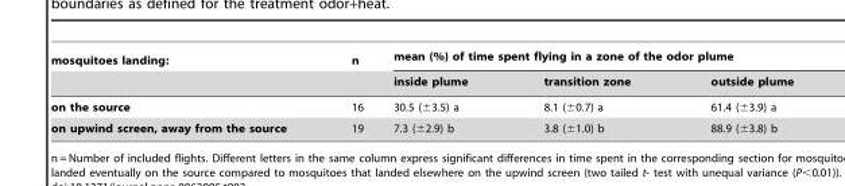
<table><thead><tr><td rowspan="2">mosquitoes landing:</td><td rowspan="2">n</td><td colspan="3">mean (%) of time spent flying in a zone of the odor plume</td></tr><tr><td>inside plume</td><td>transition zone</td><td>outside plume</td></tr></thead><tbody><tr><td>on the source</td><td>16</td><td>30.5 (±3.5) a</td><td>8.1 (±0.7) a</td><td>61.4 (±3.9) a</td></tr><tr><td>on upwind screen, away from the source</td><td>19</td><td>7.3 (±2.9) b</td><td>3.8 (±1.0) b</td><td>88.9 (±3.8) b</td></tr></tbody></table>